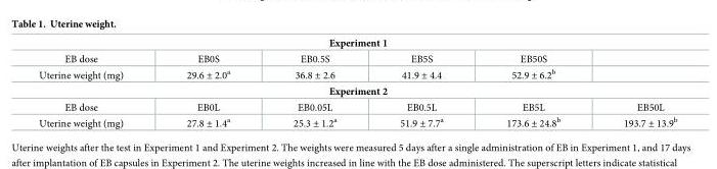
<table><tbody><tr><td colspan="6">Experiment 1</td></tr><tr><td>EB dose</td><td>EB0S</td><td>EB0.5S</td><td>EB5S</td><td>EB50S</td><td></td></tr><tr><td>Uterine weight (mg)</td><td>29.6 ± 2.0<sup>a</sup></td><td>36.8 ± 2.6</td><td>41.9 ± 4.4</td><td>52.9 ± 6.2<sup>b</sup></td><td></td></tr><tr><td colspan="6">Experiment 2</td></tr><tr><td>EB dose</td><td>EB0L</td><td>EB0.05L</td><td>EB0.5L</td><td>EB5L</td><td>EB50L</td></tr><tr><td>Uterine weight (mg)</td><td>27.8 ± 1.4<sup>a</sup></td><td>25.3 ± 1.2<sup>a</sup></td><td>51.9 ± 7.7<sup>a</sup></td><td>173.6 ± 24.8<sup>b</sup></td><td>193.7 ± 13.9<sup>b</sup></td></tr></tbody></table>